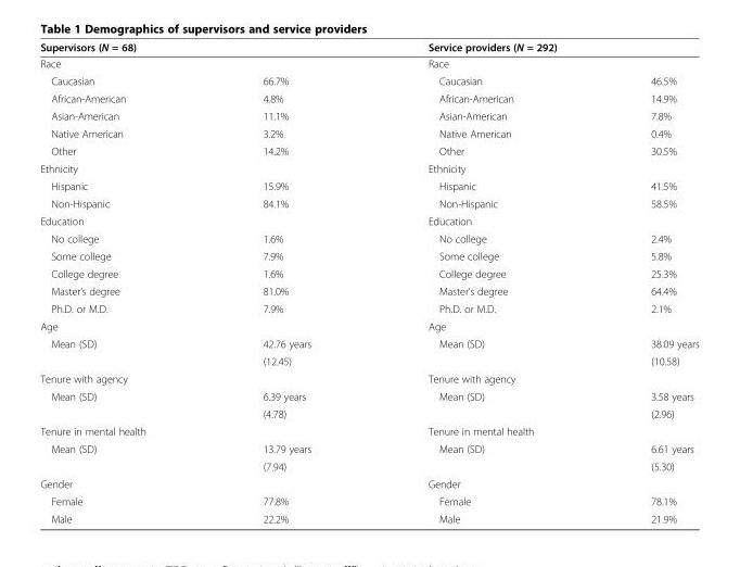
<table><thead><tr><td colspan="2">Supervisors (N = 68)</td><td colspan="2">Service providers (N = 292)</td></tr><tr><td>Race</td><td></td><td>Race</td><td></td></tr></thead><tbody><tr><td>Caucasian</td><td>66.7%</td><td>Caucasian</td><td>46.5%</td></tr><tr><td>African-American</td><td>4.8%</td><td>African-American</td><td>14.9%</td></tr><tr><td>Asian-American</td><td>11.1%</td><td>Asian-American</td><td>7.8%</td></tr><tr><td>Native American</td><td>3.2%</td><td>Native American</td><td>0.4%</td></tr><tr><td>Other</td><td>14.2%</td><td>Other</td><td>30.5%</td></tr><tr><td>Ethnicity</td><td></td><td>Ethnicity</td><td></td></tr><tr><td>Hispanic</td><td>15.9%</td><td>Hispanic</td><td>41.5%</td></tr><tr><td>Non-Hispanic</td><td>84.1%</td><td>Non-Hispanic</td><td>58.5%</td></tr><tr><td>Education</td><td></td><td>Education</td><td></td></tr><tr><td>No college</td><td>1.6%</td><td>No college</td><td>2.4%</td></tr><tr><td>Some college</td><td>7.9%</td><td>Some college</td><td>5.8%</td></tr><tr><td>College degree</td><td>1.6%</td><td>College degree</td><td>25.3%</td></tr><tr><td>Master’s degree</td><td>81.0%</td><td>Master’s degree</td><td>64.4%</td></tr><tr><td>Ph.D. or M.D.</td><td>7.9%</td><td>Ph.D. or M.D.</td><td>2.1%</td></tr><tr><td>Age</td><td></td><td>Age</td><td></td></tr><tr><td rowspan="2">Mean (SD)</td><td>42.76 years</td><td>Mean (SD)</td><td>38.09 years</td></tr><tr><td>(12.45)</td><td></td><td>(10.58)</td></tr><tr><td>Tenure with agency</td><td></td><td>Tenure with agency</td><td></td></tr><tr><td rowspan="2">Mean (SD)</td><td>6.39 years</td><td>Mean (SD)</td><td>3.58 years</td></tr><tr><td>(4.78)</td><td></td><td>(2.96)</td></tr><tr><td>Tenure in mental health</td><td></td><td>Tenure in mental health</td><td></td></tr><tr><td rowspan="2">Mean (SD)</td><td>13.79 years</td><td>Mean (SD)</td><td>6.61 years</td></tr><tr><td>(7.94)</td><td></td><td>(5.30)</td></tr><tr><td>Gender</td><td></td><td>Gender</td><td></td></tr><tr><td>Female</td><td>77.8%</td><td>Female</td><td>78.1%</td></tr><tr><td>Male</td><td>22.2%</td><td>Male</td><td>21.9%</td></tr></tbody></table>